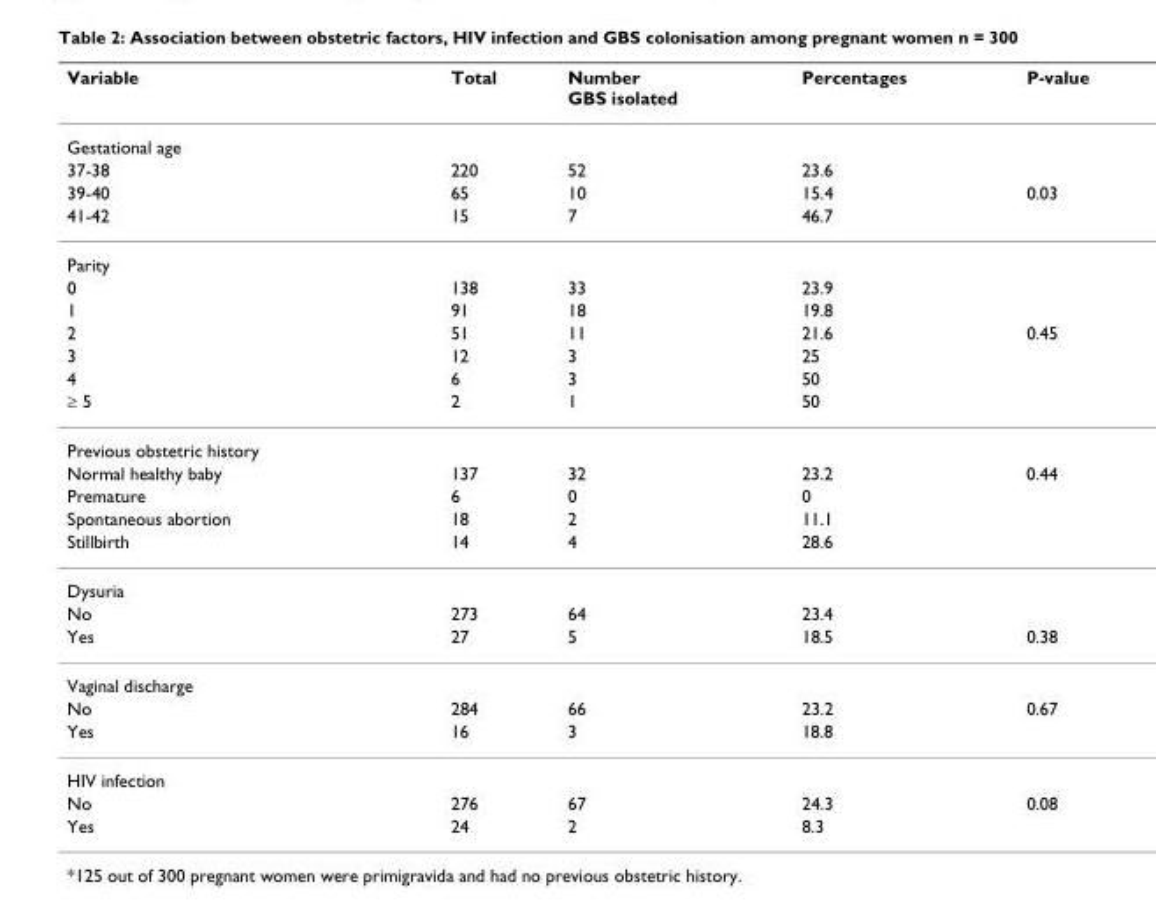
<table><thead><tr><td>Variable</td><td>Total</td><td>Number GBS isolated</td><td>Percentages</td><td>P-value</td></tr></thead><tbody><tr><td colspan="5">Gestational age</td></tr><tr><td>37-38</td><td>220</td><td>52</td><td>23.6</td><td></td></tr><tr><td>39-40</td><td>65</td><td>10</td><td>15.4</td><td>0.03</td></tr><tr><td>41-42</td><td>15</td><td>7</td><td>46.7</td><td></td></tr><tr><td colspan="5">Parity</td></tr><tr><td>0</td><td>138</td><td>33</td><td>23.9</td><td></td></tr><tr><td>1</td><td>91</td><td>18</td><td>19.8</td><td></td></tr><tr><td>2</td><td>51</td><td>11</td><td>21.6</td><td>0.45</td></tr><tr><td>3</td><td>12</td><td>3</td><td>25</td><td></td></tr><tr><td>4</td><td>6</td><td>3</td><td>50</td><td></td></tr><tr><td>≥ 5</td><td>2</td><td>1</td><td>50</td><td></td></tr><tr><td colspan="5">Previous obstetric history</td></tr><tr><td>Normal healthy baby</td><td>137</td><td>32</td><td>23.2</td><td>0.44</td></tr><tr><td>Premature</td><td>6</td><td>0</td><td>0</td><td></td></tr><tr><td>Spontaneous abortion</td><td>18</td><td>2</td><td>11.1</td><td></td></tr><tr><td>Stillbirth</td><td>14</td><td>4</td><td>28.6</td><td></td></tr><tr><td colspan="5">Dysuria</td></tr><tr><td>No</td><td>273</td><td>64</td><td>23.4</td><td></td></tr><tr><td>Yes</td><td>27</td><td>5</td><td>18.5</td><td>0.38</td></tr><tr><td colspan="5">Vaginal discharge</td></tr><tr><td>No</td><td>284</td><td>66</td><td>23.2</td><td>0.67</td></tr><tr><td>Yes</td><td>16</td><td>3</td><td>18.8</td><td></td></tr><tr><td colspan="5">HIV infection</td></tr><tr><td>No</td><td>276</td><td>67</td><td>24.3</td><td>0.08</td></tr><tr><td>Yes</td><td>24</td><td>2</td><td>8.3</td><td></td></tr></tbody></table>